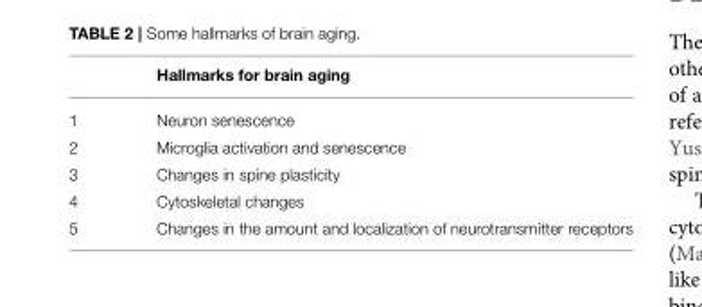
<table><thead><tr><td></td><td>Hallmarks for brain aging</td></tr></thead><tbody><tr><td>1</td><td>Neuron senescence</td></tr><tr><td>2</td><td>Microglia activation and senescence</td></tr><tr><td>3</td><td>Changes in spine plasticity</td></tr><tr><td>4</td><td>Cytoskeletal changes</td></tr><tr><td>5</td><td>Changes in the amount and localization of neurotransmitter receptors</td></tr></tbody></table>